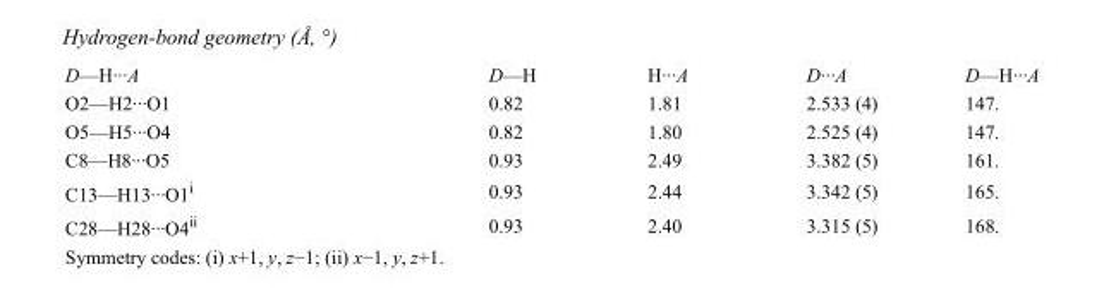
<table><tbody><tr><td>D—H···A</td><td>D—H</td><td>H···A</td><td>D···A</td><td>D—H···A</td></tr><tr><td>O2—H2···O1</td><td>0.82</td><td>1.81</td><td>2.533 (4)</td><td>147.</td></tr><tr><td>O5—H5···O4</td><td>0.82</td><td>1.80</td><td>2.525 (4)</td><td>147.</td></tr><tr><td>C8—H8···O5</td><td>0.93</td><td>2.49</td><td>3.382 (5)</td><td>161.</td></tr><tr><td>C13—H13···O1<sup>i</sup></td><td>0.93</td><td>2.44</td><td>3.342 (5)</td><td>165.</td></tr><tr><td>C28—H28···O4<sup>ii</sup></td><td>0.93</td><td>2.40</td><td>3.315 (5)</td><td>168.</td></tr></tbody></table>